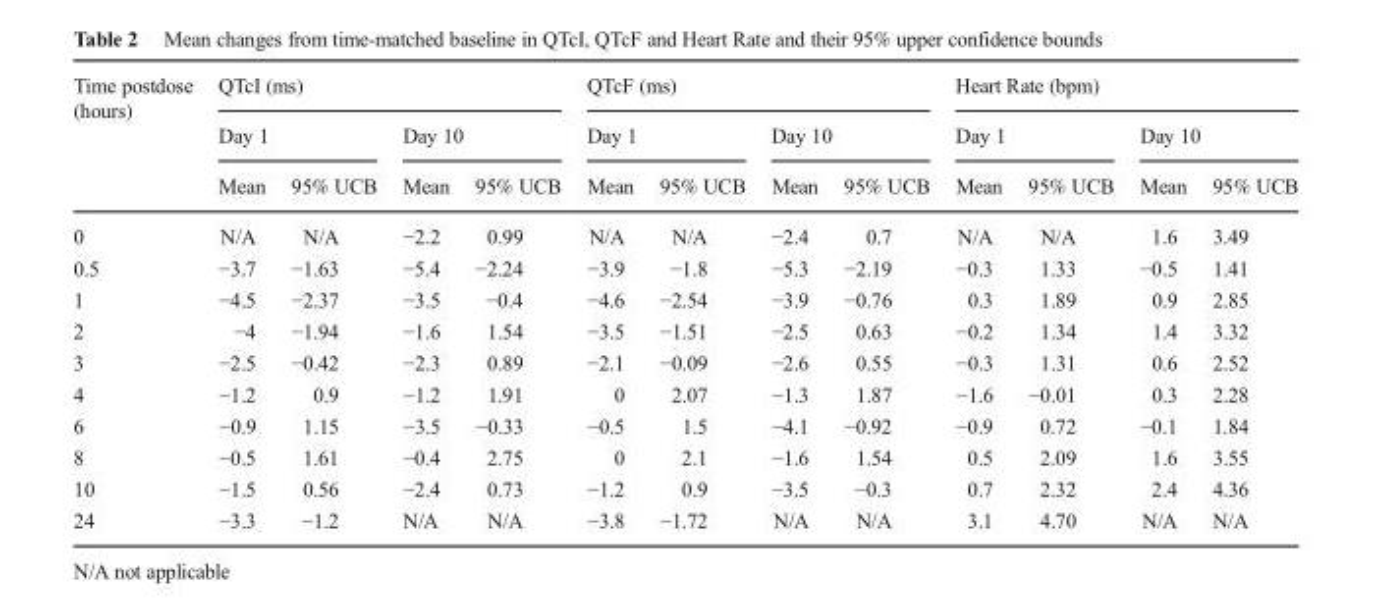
<table><thead><tr><td rowspan="3">Time postdose (hours)</td><td colspan="4">QTcI (ms)</td><td colspan="4">QTcF (ms)</td><td colspan="4">Heart Rate (bpm)</td></tr><tr><td colspan="2">Day 1</td><td colspan="2">Day 10</td><td colspan="2">Day 1</td><td colspan="2">Day 10</td><td colspan="2">Day 1</td><td colspan="2">Day 10</td></tr><tr><td>Mean</td><td>95% UCB</td><td>Mean</td><td>95% UCB</td><td>Mean</td><td>95% UCB</td><td>Mean</td><td>95% UCB</td><td>Mean</td><td>95% UCB</td><td>Mean</td><td>95% UCB</td></tr></thead><tbody><tr><td>0</td><td>N/A</td><td>N/A</td><td>−2.2</td><td>0.99</td><td>N/A</td><td>N/A</td><td>−2.4</td><td>0.7</td><td>N/A</td><td>N/A</td><td>1.6</td><td>3.49</td></tr><tr><td>0.5</td><td>−3.7</td><td>−1.63</td><td>−5.4</td><td>−2.24</td><td>−3.9</td><td>−1.8</td><td>−5.3</td><td>−2.19</td><td>−0.3</td><td>1.33</td><td>−0.5</td><td>1.41</td></tr><tr><td>1</td><td>−4.5</td><td>−2.37</td><td>−3.5</td><td>−0.4</td><td>−4.6</td><td>−2.54</td><td>−3.9</td><td>−0.76</td><td>0.3</td><td>1.89</td><td>0.9</td><td>2.85</td></tr><tr><td>2</td><td>−4</td><td>−1.94</td><td>−1.6</td><td>1.54</td><td>−3.5</td><td>−1.51</td><td>−2.5</td><td>0.63</td><td>−0.2</td><td>1.34</td><td>1.4</td><td>3.32</td></tr><tr><td>3</td><td>−2.5</td><td>−0.42</td><td>−2.3</td><td>0.89</td><td>−2.1</td><td>−0.09</td><td>−2.6</td><td>0.55</td><td>−0.3</td><td>1.31</td><td>0.6</td><td>2.52</td></tr><tr><td>4</td><td>−1.2</td><td>0.9</td><td>−1.2</td><td>1.91</td><td>0</td><td>2.07</td><td>−1.3</td><td>1.87</td><td>−1.6</td><td>−0.01</td><td>0.3</td><td>2.28</td></tr><tr><td>6</td><td>−0.9</td><td>1.15</td><td>−3.5</td><td>−0.33</td><td>−0.5</td><td>1.5</td><td>−4.1</td><td>−0.92</td><td>−0.9</td><td>0.72</td><td>−0.1</td><td>1.84</td></tr><tr><td>8</td><td>−0.5</td><td>1.61</td><td>−0.4</td><td>2.75</td><td>0</td><td>2.1</td><td>−1.6</td><td>1.54</td><td>0.5</td><td>2.09</td><td>1.6</td><td>3.55</td></tr><tr><td>10</td><td>−1.5</td><td>0.56</td><td>−2.4</td><td>0.73</td><td>−1.2</td><td>0.9</td><td>−3.5</td><td>−0.3</td><td>0.7</td><td>2.32</td><td>2.4</td><td>4.36</td></tr><tr><td>24</td><td>−3.3</td><td>−1.2</td><td>N/A</td><td>N/A</td><td>−3.8</td><td>−1.72</td><td>N/A</td><td>N/A</td><td>3.1</td><td>4.70</td><td>N/A</td><td>N/A</td></tr></tbody></table>